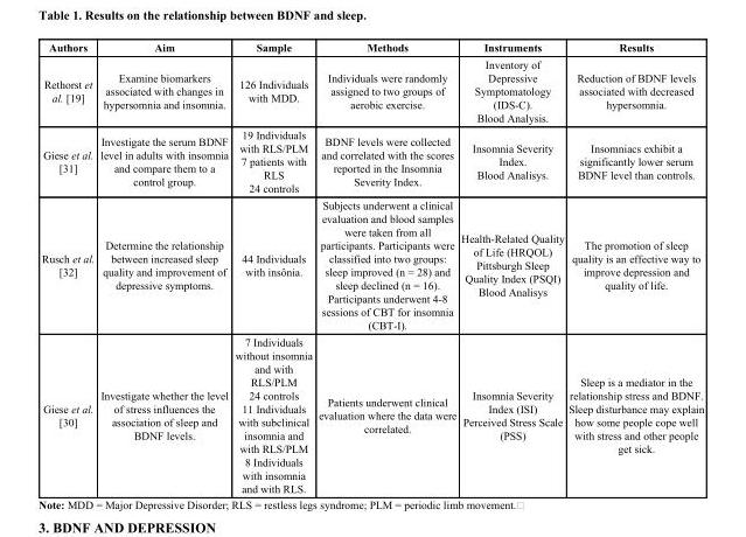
<table><thead><tr><td>Authors</td><td>Aim</td><td>Sample</td><td>Methods</td><td>Instruments</td><td>Results</td></tr></thead><tbody><tr><td>Rethorst et al. [19]</td><td>Examine biomarkers associated with changes in hypersomnia and insomnia.</td><td>126 Individuals with MDD.</td><td>Individuals were randomly assigned to two groups of aerobic exercise.</td><td>Inventory of Depressive Symptomatology (IDS-C). Blood Analysis.</td><td>Reduction of BDNF levels associated with decreased hypersomnia.</td></tr><tr><td>Giese et al. [31]</td><td>Investigate the serum BDNF level in adults with insomnia and compare them to a control group.</td><td>19 Individuals with RLS/PLM 7 patients with RLS 24 controls</td><td>BDNF levels were collected and correlated with the scores reported in the Insomnia Severity Index.</td><td>Insomnia Severity Index. Blood Analisys.</td><td>Insomniacs exhibit a significantly lower serum BDNF level than controls.</td></tr><tr><td>Rusch et al. [32]</td><td>Determine the relationship between increased sleep quality and improvement of depressive symptoms.</td><td>44 Individuals with insônia.</td><td>Subjects underwent a clinical evaluation and blood samples were taken from all participants. Participants were classified into two groups: sleep improved (n = 28) and sleep declined (n = 16). Participants underwent 4-8 sessions of CBT for insomnia (CBT-I).</td><td>Health-Related Quality of Life (HRQOL) Pittsburgh Sleep Quality Index (PSQI) Blood Analisys</td><td>The promotion of sleep quality is an effective way to improve depression and quality of life.</td></tr><tr><td>Giese et al. [30]</td><td>Investigate whether the level of stress influences the association of sleep and BDNF levels.</td><td>7 Individuals without insomnia and with RLS/PLM 24 controls 11 Individuals with subclinical insomnia and with RLS/PLM 8 Individuals with insomnia and with RLS.</td><td>Patients underwent clinical evaluation where the data were correlated.</td><td>Insomnia Severity Index (ISI) Perceived Stress Scale (PSS)</td><td>Sleep is a mediator in the relationship stress and BDNF. Sleep disturbance may explain how some people cope well with stress and other people get sick.</td></tr></tbody></table>